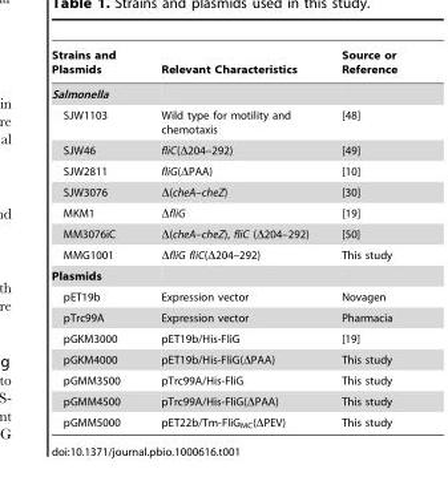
<table><thead><tr><td>Strains and Plasmids</td><td>Relevant Characteristics</td><td>Source or Reference</td></tr></thead><tbody><tr><td colspan="3">Salmonella</td></tr><tr><td>SJW1103</td><td>Wild type for motility and chemotaxis</td><td>[48]</td></tr><tr><td>SJW46</td><td>fliC(Δ204–292)</td><td>[49]</td></tr><tr><td>SJW2811</td><td>fliG(ΔPAA)</td><td>[10]</td></tr><tr><td>SJW3076</td><td>Δ(cheA–cheZ)</td><td>[30]</td></tr><tr><td>MKM1</td><td>ΔfliG</td><td>[19]</td></tr><tr><td>MM3076iC</td><td>Δ(cheA–cheZ), fliC (Δ204–292)</td><td>[50]</td></tr><tr><td>MMG1001</td><td>ΔfliG fliC(Δ204–292)</td><td>This study</td></tr><tr><td colspan="3">Plasmids</td></tr><tr><td>pET19b</td><td>Expression vector</td><td>Novagen</td></tr><tr><td>pTrc99A</td><td>Expression vector</td><td>Pharmacia</td></tr><tr><td>pGKM3000</td><td>pET19b/His-FliG</td><td>[19]</td></tr><tr><td>pGKM4000</td><td>pET19b/His-FliG(ΔPAA)</td><td>This study</td></tr><tr><td>pGMM3500</td><td>pTrc99A/His-FliG</td><td>This study</td></tr><tr><td>pGMM4500</td><td>pTrc99A/His-FliG(ΔPAA)</td><td>This study</td></tr><tr><td>pGMM5000</td><td>pET22b/Tm-FliG<sub>MC</sub>(ΔPEV)</td><td>This study</td></tr></tbody></table>